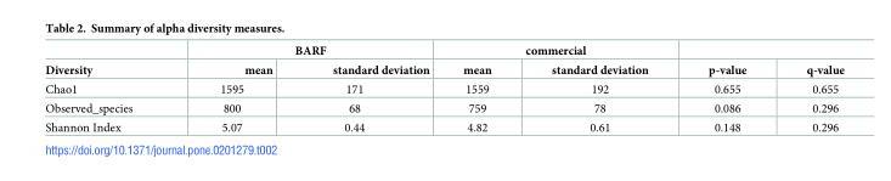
<table><thead><tr><td rowspan="2">Diversity</td><td colspan="2">BARF</td><td colspan="2">commercial</td><td rowspan="2">p-value</td><td rowspan="2">q-value</td></tr><tr><td>mean</td><td>standard deviation</td><td>mean</td><td>standard deviation</td></tr></thead><tbody><tr><td>Chao1</td><td>1595</td><td>171</td><td>1559</td><td>192</td><td>0.655</td><td>0.655</td></tr><tr><td>Observed_species</td><td>800</td><td>68</td><td>759</td><td>78</td><td>0.086</td><td>0.296</td></tr><tr><td>Shannon Index</td><td>5.07</td><td>0.44</td><td>4.82</td><td>0.61</td><td>0.148</td><td>0.296</td></tr></tbody></table>